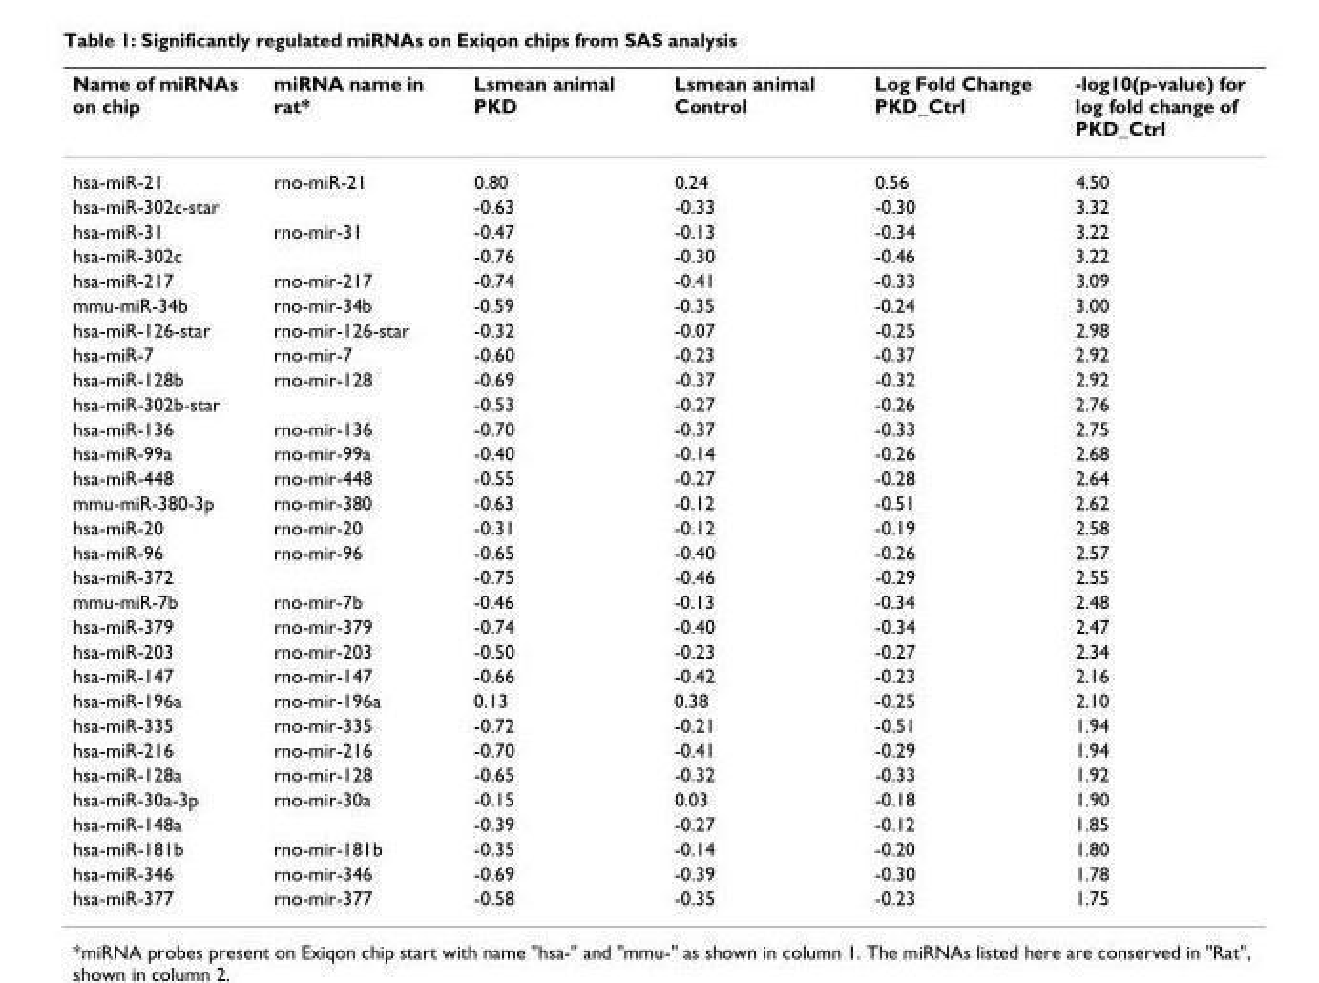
<table><thead><tr><td>Name of miRNAs on chip</td><td>miRNA name in rat*</td><td>Lsmean animal PKD</td><td>Lsmean animal Control</td><td>Log Fold Change PKD_Ctrl</td><td>-log10(p-value) for log fold change of PKD_Ctrl</td></tr></thead><tbody><tr><td>hsa-miR-21</td><td>rno-miR-21</td><td>0.80</td><td>0.24</td><td>0.56</td><td>4.50</td></tr><tr><td>hsa-miR-302c-star</td><td></td><td>-0.63</td><td>-0.33</td><td>-0.30</td><td>3.32</td></tr><tr><td>hsa-miR-31</td><td>rno-mir-31</td><td>-0.47</td><td>-0.13</td><td>-0.34</td><td>3.22</td></tr><tr><td>hsa-miR-302c</td><td></td><td>-0.76</td><td>-0.30</td><td>-0.46</td><td>3.22</td></tr><tr><td>hsa-miR-217</td><td>rno-mir-217</td><td>-0.74</td><td>-0.41</td><td>-0.33</td><td>3.09</td></tr><tr><td>mmu-miR-34b</td><td>rno-mir-34b</td><td>-0.59</td><td>-0.35</td><td>-0.24</td><td>3.00</td></tr><tr><td>hsa-miR-126-star</td><td>rno-mir-126-star</td><td>-0.32</td><td>-0.07</td><td>-0.25</td><td>2.98</td></tr><tr><td>hsa-miR-7</td><td>rno-mir-7</td><td>-0.60</td><td>-0.23</td><td>-0.37</td><td>2.92</td></tr><tr><td>hsa-miR-128b</td><td>rno-mir-128</td><td>-0.69</td><td>-0.37</td><td>-0.32</td><td>2.92</td></tr><tr><td>hsa-miR-302b-star</td><td></td><td>-0.53</td><td>-0.27</td><td>-0.26</td><td>2.76</td></tr><tr><td>hsa-miR-136</td><td>rno-mir-136</td><td>-0.70</td><td>-0.37</td><td>-0.33</td><td>2.75</td></tr><tr><td>hsa-miR-99a</td><td>rno-mir-99a</td><td>-0.40</td><td>-0.14</td><td>-0.26</td><td>2.68</td></tr><tr><td>hsa-miR-448</td><td>rno-mir-448</td><td>-0.55</td><td>-0.27</td><td>-0.28</td><td>2.64</td></tr><tr><td>mmu-miR-380-3p</td><td>rno-mir-380</td><td>-0.63</td><td>-0.12</td><td>-0.51</td><td>2.62</td></tr><tr><td>hsa-miR-20</td><td>rno-mir-20</td><td>-0.31</td><td>-0.12</td><td>-0.19</td><td>2.58</td></tr><tr><td>hsa-miR-96</td><td>rno-mir-96</td><td>-0.65</td><td>-0.40</td><td>-0.26</td><td>2.57</td></tr><tr><td>hsa-miR-372</td><td></td><td>-0.75</td><td>-0.46</td><td>-0.29</td><td>2.55</td></tr><tr><td>mmu-miR-7b</td><td>rno-mir-7b</td><td>-0.46</td><td>-0.13</td><td>-0.34</td><td>2.48</td></tr><tr><td>hsa-miR-379</td><td>rno-mir-379</td><td>-0.74</td><td>-0.40</td><td>-0.34</td><td>2.47</td></tr><tr><td>hsa-miR-203</td><td>rno-mir-203</td><td>-0.50</td><td>-0.23</td><td>-0.27</td><td>2.34</td></tr><tr><td>hsa-miR-147</td><td>rno-mir-147</td><td>-0.66</td><td>-0.42</td><td>-0.23</td><td>2.16</td></tr><tr><td>hsa-miR-196a</td><td>rno-mir-196a</td><td>0.13</td><td>0.38</td><td>-0.25</td><td>2.10</td></tr><tr><td>hsa-miR-335</td><td>rno-mir-335</td><td>-0.72</td><td>-0.21</td><td>-0.51</td><td>1.94</td></tr><tr><td>hsa-miR-216</td><td>rno-mir-216</td><td>-0.70</td><td>-0.41</td><td>-0.29</td><td>1.94</td></tr><tr><td>hsa-miR-128a</td><td>rno-mir-128</td><td>-0.65</td><td>-0.32</td><td>-0.33</td><td>1.92</td></tr><tr><td>hsa-miR-30a-3p</td><td>rno-mir-30a</td><td>-0.15</td><td>0.03</td><td>-0.18</td><td>1.90</td></tr><tr><td>hsa-miR-148a</td><td></td><td>-0.39</td><td>-0.27</td><td>-0.12</td><td>1.85</td></tr><tr><td>hsa-miR-181b</td><td>rno-mir-181b</td><td>-0.35</td><td>-0.14</td><td>-0.20</td><td>1.80</td></tr><tr><td>hsa-miR-346</td><td>rno-mir-346</td><td>-0.69</td><td>-0.39</td><td>-0.30</td><td>1.78</td></tr><tr><td>hsa-miR-377</td><td>rno-mir-377</td><td>-0.58</td><td>-0.35</td><td>-0.23</td><td>1.75</td></tr></tbody></table>